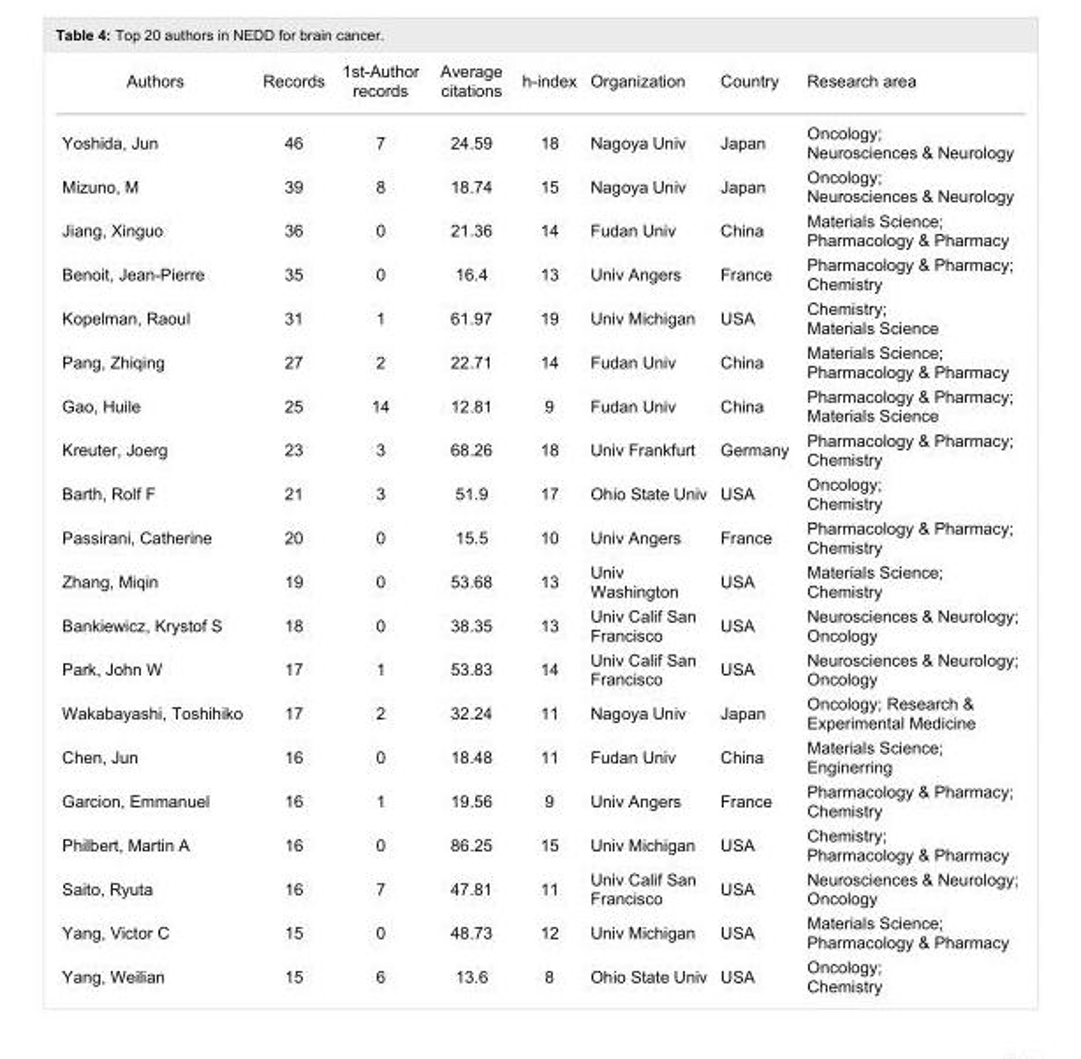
<table><tbody><tr><td>Authors</td><td>Records</td><td>1st-Author records</td><td>Average citations</td><td>h-index</td><td>Organization</td><td>Country</td><td>Research area</td></tr><tr><td>Yoshida, Jun</td><td>46</td><td>7</td><td>24.59</td><td>18</td><td>Nagoya Univ</td><td>Japan</td><td>Oncology; Neurosciences &amp; Neurology</td></tr><tr><td>Mizuno, M</td><td>39</td><td>8</td><td>18.74</td><td>15</td><td>Nagoya Univ</td><td>Japan</td><td>Oncology; Neurosciences &amp; Neurology</td></tr><tr><td>Jiang, Xinguo</td><td>36</td><td>0</td><td>21.36</td><td>14</td><td>Fudan Univ</td><td>China</td><td>Materials Science; Pharmacology &amp; Pharmacy</td></tr><tr><td>Benoit, Jean-Pierre</td><td>35</td><td>0</td><td>16.4</td><td>13</td><td>Univ Angers</td><td>France</td><td>Pharmacology &amp; Pharmacy; Chemistry</td></tr><tr><td>Kopelman, Raoul</td><td>31</td><td>1</td><td>61.97</td><td>19</td><td>Univ Michigan</td><td>USA</td><td>Chemistry; Materials Science</td></tr><tr><td>Pang, Zhiqing</td><td>27</td><td>2</td><td>22.71</td><td>14</td><td>Fudan Univ</td><td>China</td><td>Materials Science; Pharmacology &amp; Pharmacy</td></tr><tr><td>Gao, Huile</td><td>25</td><td>14</td><td>12.81</td><td>9</td><td>Fudan Univ</td><td>China</td><td>Pharmacology &amp; Pharmacy; Materials Science</td></tr><tr><td>Kreuter, Joerg</td><td>23</td><td>3</td><td>68.26</td><td>18</td><td>Univ Frankfurt</td><td>Germany</td><td>Pharmacology &amp; Pharmacy; Chemistry</td></tr><tr><td>Barth, Rolf F</td><td>21</td><td>3</td><td>51.9</td><td>17</td><td>Ohio State Univ</td><td>USA</td><td>Oncology; Chemistry</td></tr><tr><td>Passirani, Catherine</td><td>20</td><td>0</td><td>15.5</td><td>10</td><td>Univ Angers</td><td>France</td><td>Pharmacology &amp; Pharmacy; Chemistry</td></tr><tr><td>Zhang, Miqin</td><td>19</td><td>0</td><td>53.68</td><td>13</td><td>Univ Washington</td><td>USA</td><td>Materials Science; Chemistry</td></tr><tr><td>Bankiewicz, Krystof S</td><td>18</td><td>0</td><td>38.35</td><td>13</td><td>Univ Calif San Francisco</td><td>USA</td><td>Neurosciences &amp; Neurology; Oncology</td></tr><tr><td>Park, John W</td><td>17</td><td>1</td><td>53.83</td><td>14</td><td>Univ Calif San Francisco</td><td>USA</td><td>Neurosciences &amp; Neurology; Oncology</td></tr><tr><td>Wakabayashi, Toshihiko</td><td>17</td><td>2</td><td>32.24</td><td>11</td><td>Nagoya Univ</td><td>Japan</td><td>Oncology; Research &amp; Experimental Medicine</td></tr><tr><td>Chen, Jun</td><td>16</td><td>0</td><td>18.48</td><td>11</td><td>Fudan Univ</td><td>China</td><td>Materials Science; Enginerring</td></tr><tr><td>Garcion, Emmanuel</td><td>16</td><td>1</td><td>19.56</td><td>9</td><td>Univ Angers</td><td>France</td><td>Pharmacology &amp; Pharmacy; Chemistry</td></tr><tr><td>Philbert, Martin A</td><td>16</td><td>0</td><td>86.25</td><td>15</td><td>Univ Michigan</td><td>USA</td><td>Chemistry; Pharmacology &amp; Pharmacy</td></tr><tr><td>Saito, Ryuta</td><td>16</td><td>7</td><td>47.81</td><td>11</td><td>Univ Calif San Francisco</td><td>USA</td><td>Neurosciences &amp; Neurology; Oncology</td></tr><tr><td>Yang, Victor C</td><td>15</td><td>0</td><td>48.73</td><td>12</td><td>Univ Michigan</td><td>USA</td><td>Materials Science; Pharmacology &amp; Pharmacy</td></tr><tr><td>Yang, Weilian</td><td>15</td><td>6</td><td>13.6</td><td>8</td><td>Ohio State Univ</td><td>USA</td><td>Oncology; Chemistry</td></tr></tbody></table>